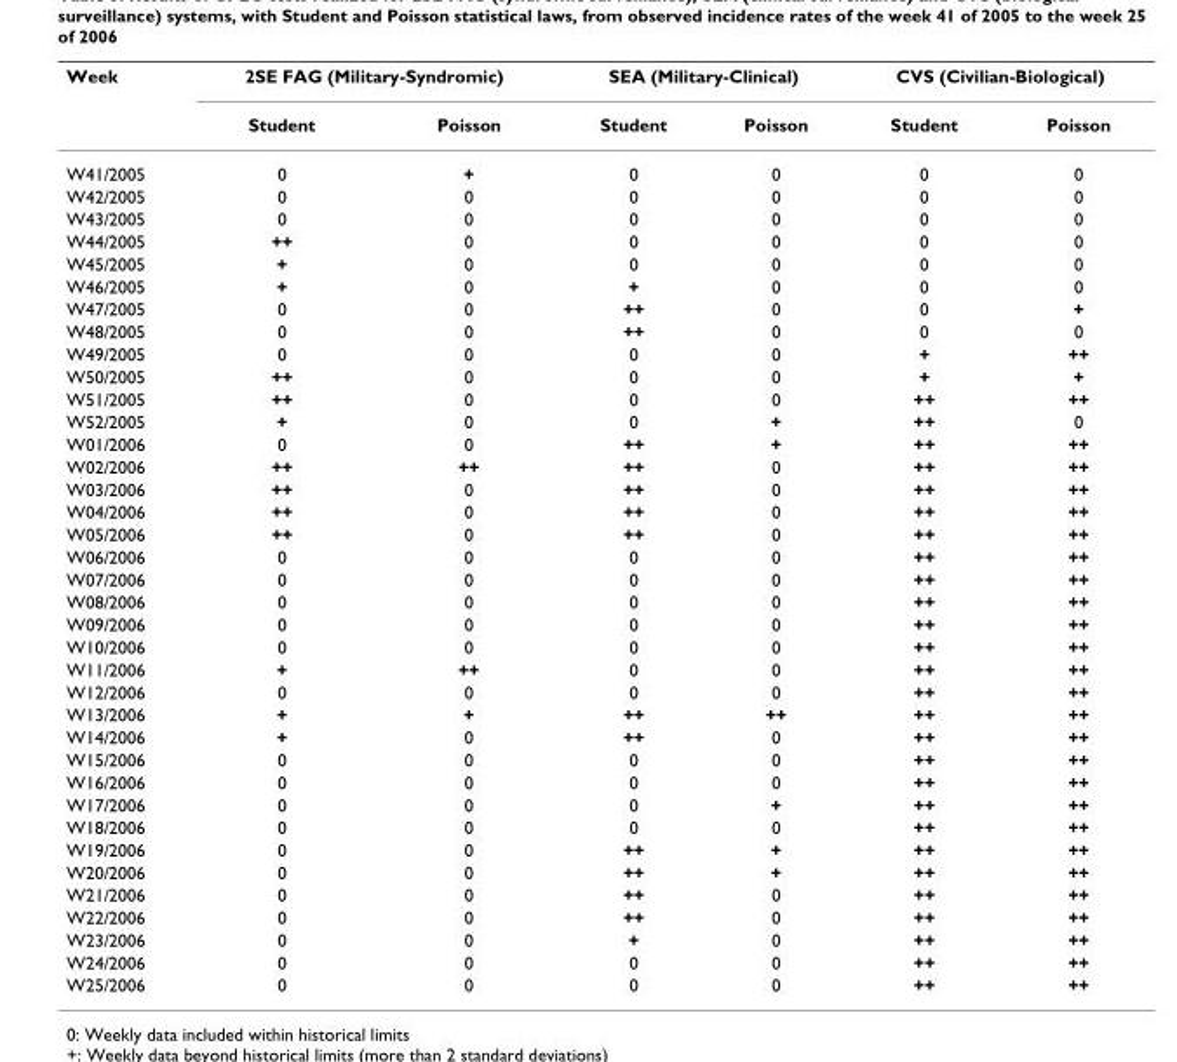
<table><thead><tr><td rowspan="2">Week</td><td colspan="2">2SE FAG (Military-Syndromic)</td><td colspan="2">SEA (Military-Clinical)</td><td colspan="2">CVS (Civilian-Biological)</td></tr><tr><td>Student</td><td>Poisson</td><td>Student</td><td>Poisson</td><td>Student</td><td>Poisson</td></tr></thead><tbody><tr><td>W41/2005</td><td>0</td><td>+</td><td>0</td><td>0</td><td>0</td><td>0</td></tr><tr><td>W42/2005</td><td>0</td><td>0</td><td>0</td><td>0</td><td>0</td><td>0</td></tr><tr><td>W43/2005</td><td>0</td><td>0</td><td>0</td><td>0</td><td>0</td><td>0</td></tr><tr><td>W44/2005</td><td>++</td><td>0</td><td>0</td><td>0</td><td>0</td><td>0</td></tr><tr><td>W45/2005</td><td>+</td><td>0</td><td>0</td><td>0</td><td>0</td><td>0</td></tr><tr><td>W46/2005</td><td>+</td><td>0</td><td>+</td><td>0</td><td>0</td><td>0</td></tr><tr><td>W47/2005</td><td>0</td><td>0</td><td>++</td><td>0</td><td>0</td><td>+</td></tr><tr><td>W48/2005</td><td>0</td><td>0</td><td>++</td><td>0</td><td>0</td><td>0</td></tr><tr><td>W49/2005</td><td>0</td><td>0</td><td>0</td><td>0</td><td>+</td><td>++</td></tr><tr><td>W50/2005</td><td>++</td><td>0</td><td>0</td><td>0</td><td>+</td><td>+</td></tr><tr><td>W51/2005</td><td>++</td><td>0</td><td>0</td><td>0</td><td>++</td><td>++</td></tr><tr><td>W52/2005</td><td>+</td><td>0</td><td>0</td><td>+</td><td>++</td><td>0</td></tr><tr><td>W01/2006</td><td>0</td><td>0</td><td>++</td><td>+</td><td>++</td><td>++</td></tr><tr><td>W02/2006</td><td>++</td><td>++</td><td>++</td><td>0</td><td>++</td><td>++</td></tr><tr><td>W03/2006</td><td>++</td><td>0</td><td>++</td><td>0</td><td>++</td><td>++</td></tr><tr><td>W04/2006</td><td>++</td><td>0</td><td>++</td><td>0</td><td>++</td><td>++</td></tr><tr><td>W05/2006</td><td>++</td><td>0</td><td>++</td><td>0</td><td>++</td><td>++</td></tr><tr><td>W06/2006</td><td>0</td><td>0</td><td>0</td><td>0</td><td>++</td><td>++</td></tr><tr><td>W07/2006</td><td>0</td><td>0</td><td>0</td><td>0</td><td>++</td><td>++</td></tr><tr><td>W08/2006</td><td>0</td><td>0</td><td>0</td><td>0</td><td>++</td><td>++</td></tr><tr><td>W09/2006</td><td>0</td><td>0</td><td>0</td><td>0</td><td>++</td><td>++</td></tr><tr><td>W10/2006</td><td>0</td><td>0</td><td>0</td><td>0</td><td>++</td><td>++</td></tr><tr><td>W11/2006</td><td>+</td><td>++</td><td>0</td><td>0</td><td>++</td><td>++</td></tr><tr><td>W12/2006</td><td>0</td><td>0</td><td>0</td><td>0</td><td>++</td><td>++</td></tr><tr><td>W13/2006</td><td>+</td><td>+</td><td>++</td><td>++</td><td>++</td><td>++</td></tr><tr><td>W14/2006</td><td>+</td><td>0</td><td>++</td><td>0</td><td>++</td><td>++</td></tr><tr><td>W15/2006</td><td>0</td><td>0</td><td>0</td><td>0</td><td>++</td><td>++</td></tr><tr><td>W16/2006</td><td>0</td><td>0</td><td>0</td><td>0</td><td>++</td><td>++</td></tr><tr><td>W17/2006</td><td>0</td><td>0</td><td>0</td><td>+</td><td>++</td><td>++</td></tr><tr><td>W18/2006</td><td>0</td><td>0</td><td>0</td><td>0</td><td>++</td><td>++</td></tr><tr><td>W19/2006</td><td>0</td><td>0</td><td>++</td><td>+</td><td>++</td><td>++</td></tr><tr><td>W20/2006</td><td>0</td><td>0</td><td>++</td><td>+</td><td>++</td><td>++</td></tr><tr><td>W21/2006</td><td>0</td><td>0</td><td>++</td><td>0</td><td>++</td><td>++</td></tr><tr><td>W22/2006</td><td>0</td><td>0</td><td>++</td><td>0</td><td>++</td><td>++</td></tr><tr><td>W23/2006</td><td>0</td><td>0</td><td>+</td><td>0</td><td>++</td><td>++</td></tr><tr><td>W24/2006</td><td>0</td><td>0</td><td>0</td><td>0</td><td>++</td><td>++</td></tr><tr><td>W25/2006</td><td>0</td><td>0</td><td>0</td><td>0</td><td>++</td><td>++</td></tr></tbody></table>